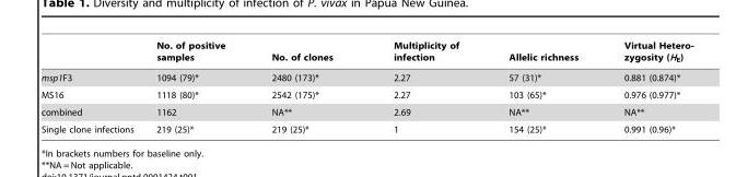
<table><thead><tr><td></td><td>No. of positive samples</td><td>No. of clones</td><td>Multiplicity of infection</td><td>Allelic richness</td><td>Virtual Hetero- zygosity (HE)</td></tr></thead><tbody><tr><td>msp1F3</td><td>1094 (79)*</td><td>2480 (173)*</td><td>2.27</td><td>57 (31)*</td><td>0.881 (0.874)*</td></tr><tr><td>MS16</td><td>1118 (80)*</td><td>2542 (175)*</td><td>2.27</td><td>103 (65)*</td><td>0.976 (0.977)*</td></tr><tr><td>combined</td><td>1162</td><td>NA**</td><td>2.69</td><td>NA**</td><td>NA**</td></tr><tr><td>Single clone infections</td><td>219 (25)*</td><td>219 (25)*</td><td>1</td><td>154 (25)*</td><td>0.991 (0.96)*</td></tr></tbody></table>